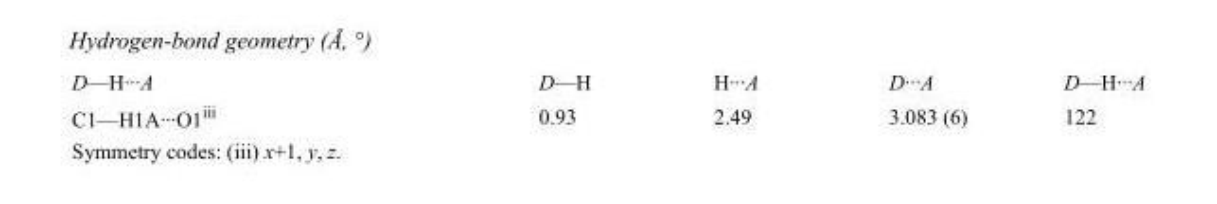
<table><tbody><tr><td>D—H···A</td><td>D—H</td><td>H···A</td><td>D···A</td><td>D—H···A</td></tr><tr><td>C1—H1A···O1<sup>iii</sup></td><td>0.93</td><td>2.49</td><td>3.083 (6)</td><td>122</td></tr></tbody></table>